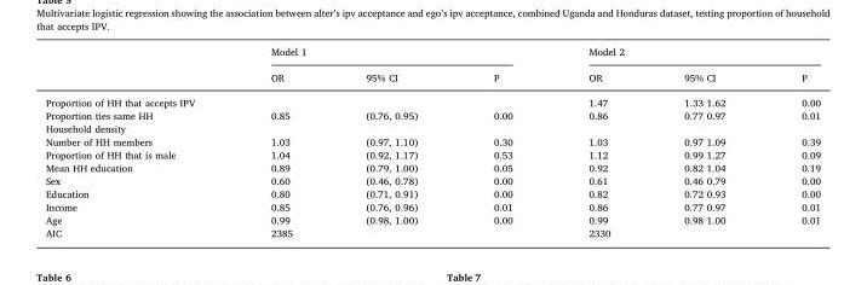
<table><thead><tr><td rowspan="2"></td><td colspan="3">Model 1</td><td colspan="3">Model 2</td></tr><tr><td>OR</td><td>95% CI</td><td>P</td><td>OR</td><td>95% CI</td><td>P</td></tr></thead><tbody><tr><td>Proportion of HH that accepts IPV</td><td></td><td></td><td></td><td>1.47</td><td>1.33 1.62</td><td>0.00</td></tr><tr><td>Proportion ties same HH</td><td>0.85</td><td>(0.76, 0.95)</td><td>0.00</td><td>0.86</td><td>0.77 0.97</td><td>0.01</td></tr><tr><td colspan="7">Household density</td></tr><tr><td>Number of HH members</td><td>1.03</td><td>(0.97, 1.10)</td><td>0.30</td><td>1.03</td><td>0.97 1.09</td><td>0.39</td></tr><tr><td>Proportion of HH that is male</td><td>1.04</td><td>(0.92, 1.17)</td><td>0.53</td><td>1.12</td><td>0.99 1.27</td><td>0.09</td></tr><tr><td>Mean HH education</td><td>0.89</td><td>(0.79, 1.00)</td><td>0.05</td><td>0.92</td><td>0.82 1.04</td><td>0.19</td></tr><tr><td>Sex</td><td>0.60</td><td>(0.46, 0.78)</td><td>0.00</td><td>0.61</td><td>0.46 0.79</td><td>0.00</td></tr><tr><td>Education</td><td>0.80</td><td>(0.71, 0.91)</td><td>0.00</td><td>0.82</td><td>0.72 0.93</td><td>0.00</td></tr><tr><td>Income</td><td>0.85</td><td>(0.76, 0.96)</td><td>0.01</td><td>0.86</td><td>0.77 0.97</td><td>0.01</td></tr><tr><td>Age</td><td>0.99</td><td>(0.98, 1.00)</td><td>0.00</td><td>0.99</td><td>0.98 1.00</td><td>0.01</td></tr><tr><td>AIC</td><td colspan="3">2385</td><td colspan="3">2330</td></tr></tbody></table>